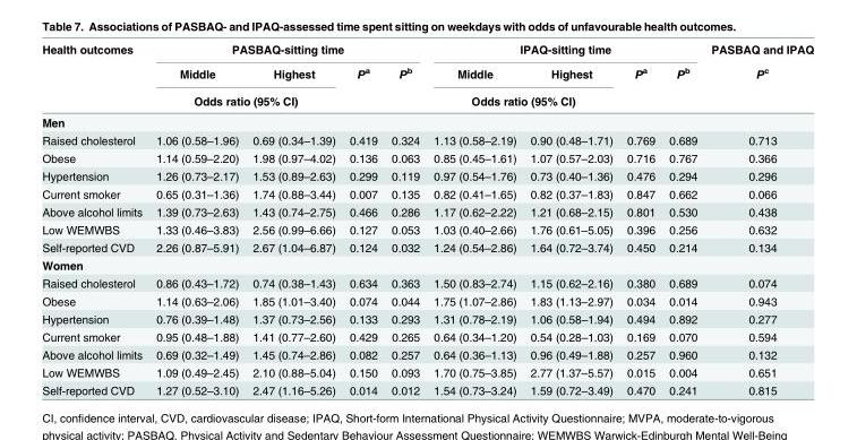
<table><thead><tr><td rowspan="3">Health outcomes</td><td colspan="4">PASBAQ-sitting time</td><td colspan="4">IPAQ-sitting time</td><td rowspan="3">PASBAQ and IPAQ P<sup>c</sup></td></tr><tr><td>Middle</td><td>Highest</td><td rowspan="2">P<sup>a</sup></td><td rowspan="2">P<sup>b</sup></td><td>Middle</td><td>Highest</td><td rowspan="2">P<sup>a</sup></td><td rowspan="2">P<sup>b</sup></td></tr><tr><td colspan="2">Odds ratio (95% CI)</td><td colspan="2">Odds ratio (95% CI)</td></tr></thead><tbody><tr><td colspan="10">Men</td></tr><tr><td>Raised cholesterol</td><td>1.06 (0.58–1.96)</td><td>0.69 (0.34–1.39)</td><td>0.419</td><td>0.324</td><td>1.13 (0.58–2.19)</td><td>0.90 (0.48–1.71)</td><td>0.769</td><td>0.689</td><td>0.713</td></tr><tr><td>Obese</td><td>1.14 (0.59–2.20)</td><td>1.98 (0.97–4.02)</td><td>0.136</td><td>0.063</td><td>0.85 (0.45–1.61)</td><td>1.07 (0.57–2.03)</td><td>0.716</td><td>0.767</td><td>0.366</td></tr><tr><td>Hypertension</td><td>1.26 (0.73–2.17)</td><td>1.53 (0.89–2.63)</td><td>0.299</td><td>0.119</td><td>0.97 (0.54–1.76)</td><td>0.73 (0.40–1.36)</td><td>0.476</td><td>0.294</td><td>0.296</td></tr><tr><td>Current smoker</td><td>0.65 (0.31–1.36)</td><td>1.74 (0.88–3.44)</td><td>0.007</td><td>0.135</td><td>0.82 (0.41–1.65)</td><td>0.82 (0.37–1.83)</td><td>0.847</td><td>0.662</td><td>0.066</td></tr><tr><td>Above alcohol limits</td><td>1.39 (0.73–2.63)</td><td>1.43 (0.74–2.75)</td><td>0.466</td><td>0.286</td><td>1.17 (0.62–2.22)</td><td>1.21 (0.68–2.15)</td><td>0.801</td><td>0.530</td><td>0.438</td></tr><tr><td>Low WEMWBS</td><td>1.33 (0.46–3.83)</td><td>2.56 (0.99–6.66)</td><td>0.127</td><td>0.053</td><td>1.03 (0.40–2.66)</td><td>1.76 (0.61–5.05)</td><td>0.396</td><td>0.256</td><td>0.632</td></tr><tr><td>Self-reported CVD</td><td>2.26 (0.87–5.91)</td><td>2.67 (1.04–6.87)</td><td>0.124</td><td>0.032</td><td>1.24 (0.54–2.86)</td><td>1.64 (0.72–3.74)</td><td>0.450</td><td>0.214</td><td>0.134</td></tr><tr><td colspan="10">Women</td></tr><tr><td>Raised cholesterol</td><td>0.86 (0.43–1.72)</td><td>0.74 (0.38–1.43)</td><td>0.634</td><td>0.363</td><td>1.50 (0.83–2.74)</td><td>1.15 (0.62–2.16)</td><td>0.380</td><td>0.689</td><td>0.074</td></tr><tr><td>Obese</td><td>1.14 (0.63–2.06)</td><td>1.85 (1.01–3.40)</td><td>0.074</td><td>0.044</td><td>1.75 (1.07–2.86)</td><td>1.83 (1.13–2.97)</td><td>0.034</td><td>0.014</td><td>0.943</td></tr><tr><td>Hypertension</td><td>0.76 (0.39–1.48)</td><td>1.37 (0.73–2.56)</td><td>0.133</td><td>0.293</td><td>1.31 (0.78–2.19)</td><td>1.06 (0.58–1.94)</td><td>0.494</td><td>0.892</td><td>0.277</td></tr><tr><td>Current smoker</td><td>0.95 (0.48–1.88)</td><td>1.41 (0.77–2.60)</td><td>0.429</td><td>0.265</td><td>0.64 (0.34–1.20)</td><td>0.54 (0.28–1.03)</td><td>0.169</td><td>0.070</td><td>0.594</td></tr><tr><td>Above alcohol limits</td><td>0.69 (0.32–1.49)</td><td>1.45 (0.74–2.86)</td><td>0.082</td><td>0.257</td><td>0.64 (0.36–1.13)</td><td>0.96 (0.49–1.88)</td><td>0.257</td><td>0.960</td><td>0.132</td></tr><tr><td>Low WEMWBS</td><td>1.09 (0.49–2.45)</td><td>2.10 (0.88–5.04)</td><td>0.150</td><td>0.093</td><td>1.70 (0.75–3.85)</td><td>2.77 (1.37–5.57)</td><td>0.015</td><td>0.004</td><td>0.651</td></tr><tr><td>Self-reported CVD</td><td>1.27 (0.52–3.10)</td><td>2.47 (1.16–5.26)</td><td>0.014</td><td>0.012</td><td>1.54 (0.73–3.24)</td><td>1.59 (0.72–3.49)</td><td>0.470</td><td>0.241</td><td>0.815</td></tr></tbody></table>